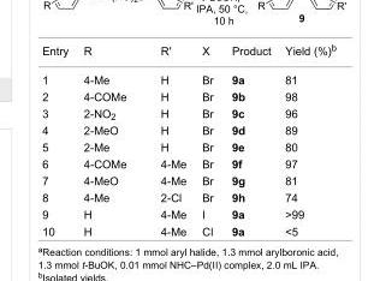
<table><tbody><tr><td>Entry</td><td>R</td><td>R&#x27;</td><td>X</td><td>Product</td><td>Yield (%)<sup>b</sup></td></tr><tr><td>1</td><td>4-Me</td><td>H</td><td>Br</td><td>9a</td><td>81</td></tr><tr><td>2</td><td>4-COMe</td><td>H</td><td>Br</td><td>9b</td><td>98</td></tr><tr><td>3</td><td>2-NO<sub>2</sub></td><td>H</td><td>Br</td><td>9c</td><td>96</td></tr><tr><td>4</td><td>2-MeO</td><td>H</td><td>Br</td><td>9d</td><td>89</td></tr><tr><td>5</td><td>2-Me</td><td>H</td><td>Br</td><td>9e</td><td>80</td></tr><tr><td>6</td><td>4-COMe</td><td>4-Me</td><td>Br</td><td>9f</td><td>97</td></tr><tr><td>7</td><td>4-MeO</td><td>4-Me</td><td>Br</td><td>9g</td><td>81</td></tr><tr><td>8</td><td>4-Me</td><td>2-Cl</td><td>Br</td><td>9h</td><td>74</td></tr><tr><td>9</td><td>H</td><td>4-Me</td><td>I</td><td>9a</td><td>&gt;99</td></tr><tr><td>10</td><td>H</td><td>4-Me</td><td>Cl</td><td>9a</td><td>&lt;5</td></tr></tbody></table>